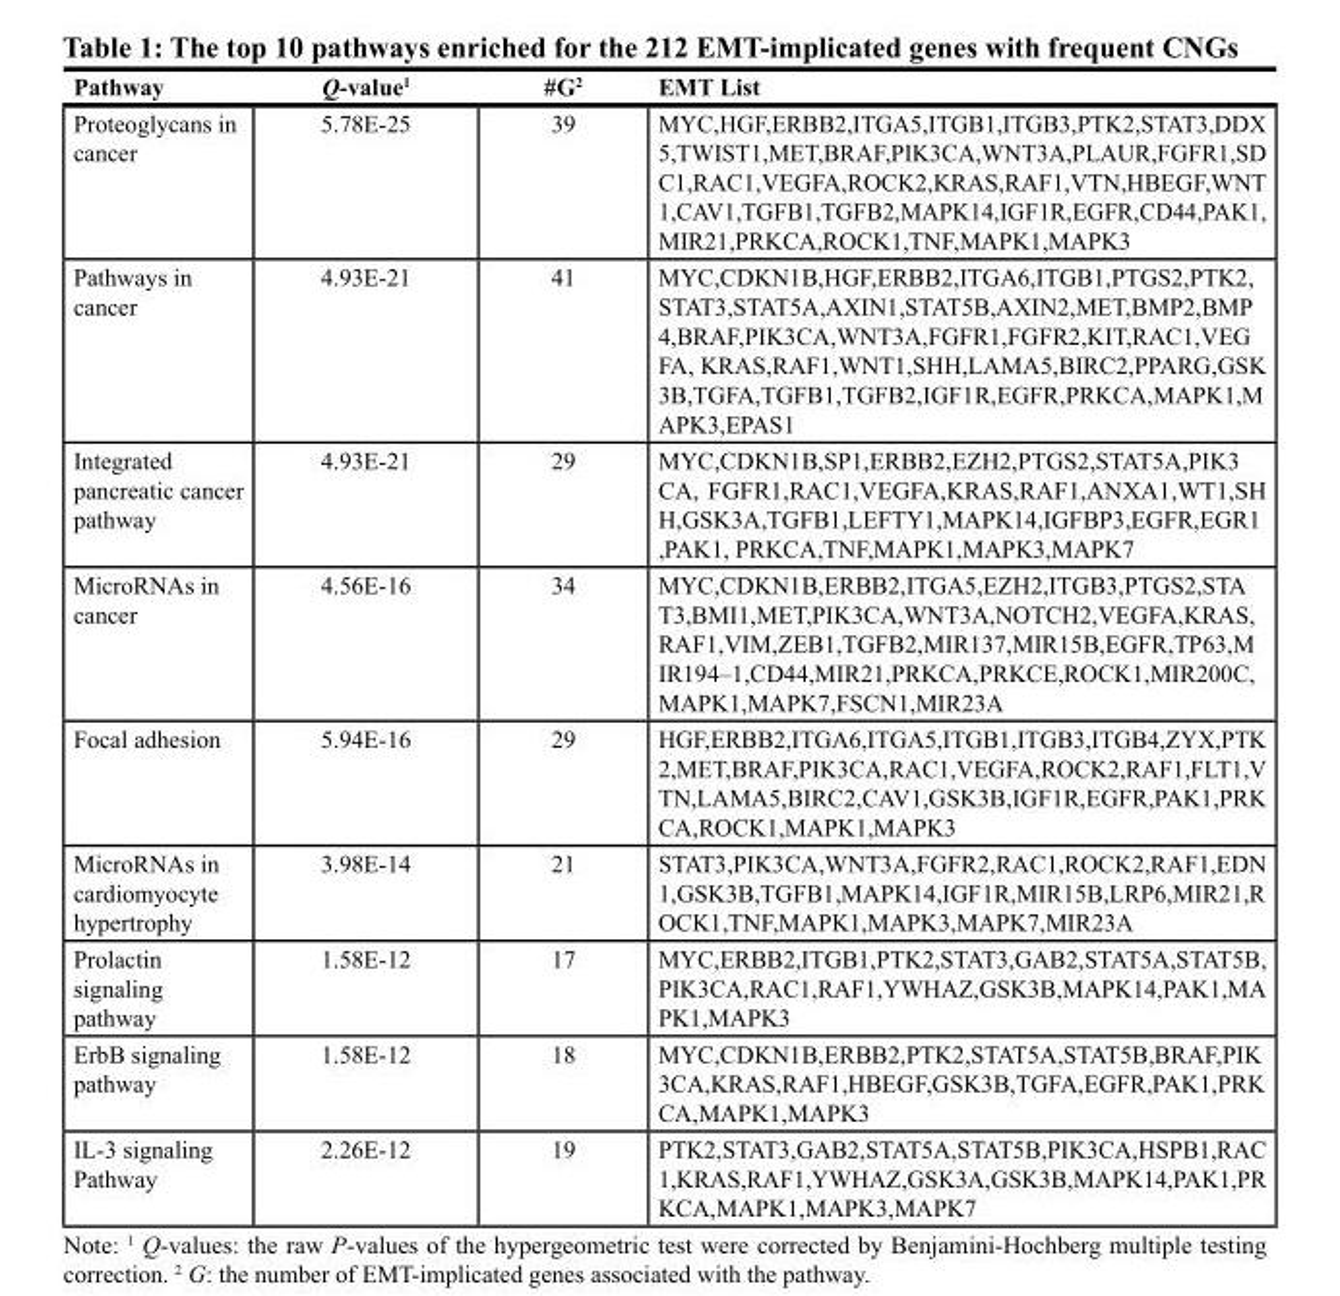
<table><thead><tr><td>Pathway</td><td>Q-value<sup>1</sup></td><td>#G<sup>2</sup></td><td>EMT List</td></tr></thead><tbody><tr><td>Proteoglycans in cancer</td><td>5.78E-25</td><td>39</td><td>MYC,HGF,ERBB2,ITGA5,ITGB1,ITGB3,PTK2,STAT3,DDX 5,TWIST1,MET,BRAF,PIK3CA,WNT3A,PLAUR,FGFR1,SD C1,RAC1,VEGFA,ROCK2,KRAS,RAF1,VTN,HBEGF,WNT 1,CAV1,TGFB1,TGFB2,MAPK14,IGF1R,EGFR,CD44,PAK1, MIR21,PRKCA,ROCK1,TNF,MAPK1,MAPK3</td></tr><tr><td>Pathways in cancer</td><td>4.93E-21</td><td>41</td><td>MYC,CDKN1B,HGF,ERBB2,ITGA6,ITGB1,PTGS2,PTK2, STAT3,STAT5A,AXIN1,STAT5B,AXIN2,MET,BMP2,BMP 4,BRAF,PIK3CA,WNT3A,FGFR1,FGFR2,KIT,RAC1,VEG FA, KRAS,RAF1,WNT1,SHH,LAMA5,BIRC2,PPARG,GSK 3B,TGFA,TGFB1,TGFB2,IGF1R,EGFR,PRKCA,MAPK1,M APK3,EPAS1</td></tr><tr><td>Integrated pancreatic cancer pathway</td><td>4.93E-21</td><td>29</td><td>MYC,CDKN1B,SP1,ERBB2,EZH2,PTGS2,STAT5A,PIK3 CA, FGFR1,RAC1,VEGFA,KRAS,RAF1,ANXA1,WT1,SH H,GSK3A,TGFB1,LEFTY1,MAPK14,IGFBP3,EGFR,EGR1 ,PAK1, PRKCA,TNF,MAPK1,MAPK3,MAPK7</td></tr><tr><td>MicroRNAs in cancer</td><td>4.56E-16</td><td>34</td><td>MYC,CDKN1B,ERBB2,ITGA5,EZH2,ITGB3,PTGS2,STA T3,BMI1,MET,PIK3CA,WNT3A,NOTCH2,VEGFA,KRAS, RAF1,VIM,ZEB1,TGFB2,MIR137,MIR15B,EGFR,TP63,M IR194–1,CD44,MIR21,PRKCA,PRKCE,ROCK1,MIR200C, MAPK1,MAPK7,FSCN1,MIR23A</td></tr><tr><td>Focal adhesion</td><td>5.94E-16</td><td>29</td><td>HGF,ERBB2,ITGA6,ITGA5,ITGB1,ITGB3,ITGB4,ZYX,PTK 2,MET,BRAF,PIK3CA,RAC1,VEGFA,ROCK2,RAF1,FLT1,V TN,LAMA5,BIRC2,CAV1,GSK3B,IGF1R,EGFR,PAK1,PRK CA,ROCK1,MAPK1,MAPK3</td></tr><tr><td>MicroRNAs in cardiomyocyte hypertrophy</td><td>3.98E-14</td><td>21</td><td>STAT3,PIK3CA,WNT3A,FGFR2,RAC1,ROCK2,RAF1,EDN 1,GSK3B,TGFB1,MAPK14,IGF1R,MIR15B,LRP6,MIR21,R OCK1,TNF,MAPK1,MAPK3,MAPK7,MIR23A</td></tr><tr><td>Prolactin signaling pathway</td><td>1.58E-12</td><td>17</td><td>MYC,ERBB2,ITGB1,PTK2,STAT3,GAB2,STAT5A,STAT5B, PIK3CA,RAC1,RAF1,YWHAZ,GSK3B,MAPK14,PAK1,MA PK1,MAPK3</td></tr><tr><td>ErbB signaling pathway</td><td>1.58E-12</td><td>18</td><td>MYC,CDKN1B,ERBB2,PTK2,STAT5A,STAT5B,BRAF,PIK 3CA,KRAS,RAF1,HBEGF,GSK3B,TGFA,EGFR,PAK1,PRK CA,MAPK1,MAPK3</td></tr><tr><td>IL-3 signaling Pathway</td><td>2.26E-12</td><td>19</td><td>PTK2,STAT3,GAB2,STAT5A,STAT5B,PIK3CA,HSPB1,RAC 1,KRAS,RAF1,YWHAZ,GSK3A,GSK3B,MAPK14,PAK1,PR KCA,MAPK1,MAPK3,MAPK7</td></tr></tbody></table>